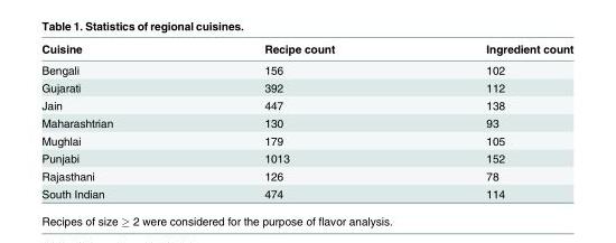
<table><thead><tr><td>Cuisine</td><td>Recipe count</td><td>Ingredient count</td></tr></thead><tbody><tr><td>Bengali</td><td>156</td><td>102</td></tr><tr><td>Gujarati</td><td>392</td><td>112</td></tr><tr><td>Jain</td><td>447</td><td>138</td></tr><tr><td>Maharashtrian</td><td>130</td><td>93</td></tr><tr><td>Mughlai</td><td>179</td><td>105</td></tr><tr><td>Punjabi</td><td>1013</td><td>152</td></tr><tr><td>Rajasthani</td><td>126</td><td>78</td></tr><tr><td>South Indian</td><td>474</td><td>114</td></tr></tbody></table>